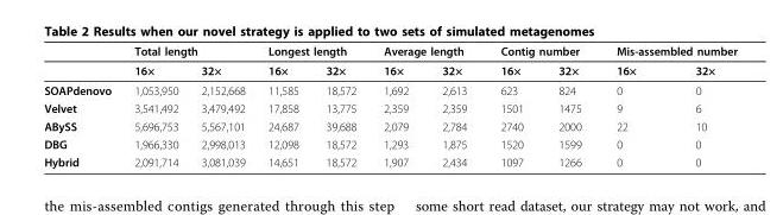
<table><thead><tr><td rowspan="2"></td><td colspan="2">Total length</td><td colspan="2">Longest length</td><td colspan="2">Average length</td><td colspan="2">Contig number</td><td colspan="2">Mis-assembled number</td></tr><tr><td>16×</td><td>32×</td><td>16×</td><td>32×</td><td>16×</td><td>32×</td><td>16×</td><td>32×</td><td>16×</td><td>32×</td></tr></thead><tbody><tr><td>SOAPdenovo</td><td>1,053,950</td><td>2,152,668</td><td>11,585</td><td>18,572</td><td>1,692</td><td>2,613</td><td>623</td><td>824</td><td>0</td><td>0</td></tr><tr><td>Velvet</td><td>3,541,492</td><td>3,479,492</td><td>17,858</td><td>13,775</td><td>2,359</td><td>2,359</td><td>1501</td><td>1475</td><td>9</td><td>6</td></tr><tr><td>ABySS</td><td>5,696,753</td><td>5,567,101</td><td>24,687</td><td>39,688</td><td>2,079</td><td>2,784</td><td>2740</td><td>2000</td><td>22</td><td>10</td></tr><tr><td>DBG</td><td>1,966,330</td><td>2,998,013</td><td>12,098</td><td>18,572</td><td>1,293</td><td>1,875</td><td>1520</td><td>1599</td><td>0</td><td>0</td></tr><tr><td>Hybrid</td><td>2,091,714</td><td>3,081,039</td><td>14,651</td><td>18,572</td><td>1,907</td><td>2,434</td><td>1097</td><td>1266</td><td>0</td><td>0</td></tr></tbody></table>